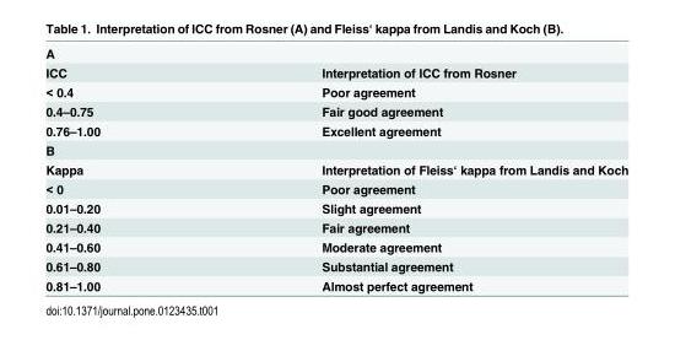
<table><tbody><tr><td colspan="2">A</td></tr><tr><td>ICC</td><td>Interpretation of ICC from Rosner</td></tr><tr><td>&lt; 0.4</td><td>Poor agreement</td></tr><tr><td>0.4–0.75</td><td>Fair good agreement</td></tr><tr><td>0.76–1.00</td><td>Excellent agreement</td></tr><tr><td colspan="2">B</td></tr><tr><td>Kappa</td><td>Interpretation of Fleiss‘ kappa from Landis and Koch</td></tr><tr><td>&lt; 0</td><td>Poor agreement</td></tr><tr><td>0.01–0.20</td><td>Slight agreement</td></tr><tr><td>0.21–0.40</td><td>Fair agreement</td></tr><tr><td>0.41–0.60</td><td>Moderate agreement</td></tr><tr><td>0.61–0.80</td><td>Substantial agreement</td></tr><tr><td>0.81–1.00</td><td>Almost perfect agreement</td></tr></tbody></table>